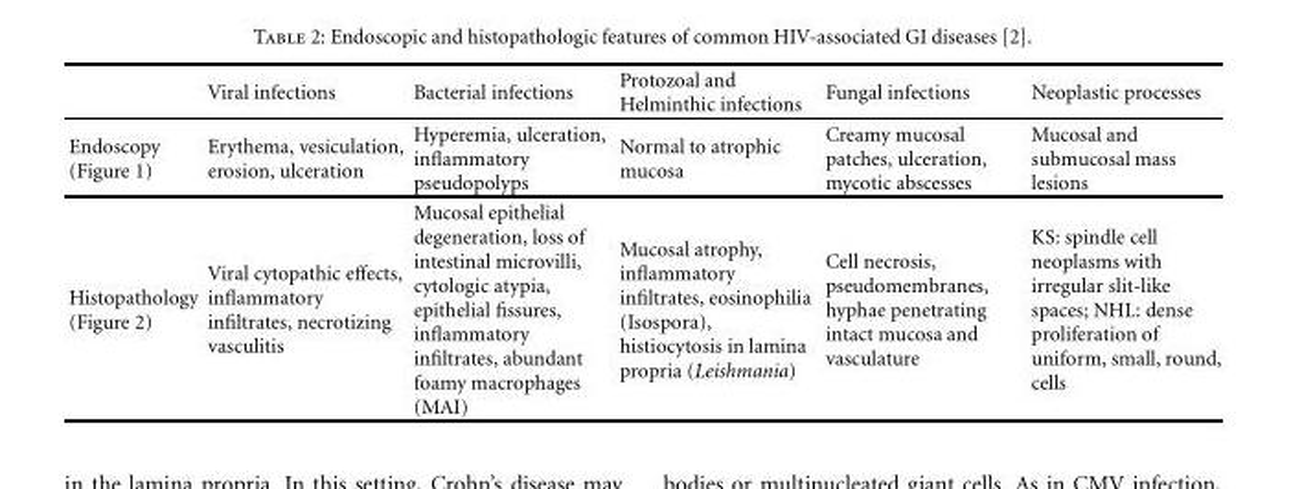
<table><thead><tr><td></td><td>Viral infections</td><td>Bacterial infections</td><td>Protozoal and Helminthic infections</td><td>Fungal infections</td><td>Neoplastic processes</td></tr></thead><tbody><tr><td>Endoscopy (Figure 1)</td><td>Erythema, vesiculation, erosion, ulceration</td><td>Hyperemia, ulceration, inflammatory pseudopolyps</td><td>Normal to atrophic mucosa</td><td>Creamy mucosal patches, ulceration, mycotic abscesses</td><td>Mucosal and submucosal mass lesions</td></tr><tr><td>Histopathology (Figure 2)</td><td>Viral cytopathic effects, inflammatory infiltrates, necrotizing vasculitis</td><td>Mucosal epithelial degeneration, loss of intestinal microvilli, cytologic atypia, epithelial fissures, inflammatory infiltrates, abundant foamy macrophages (MAI)</td><td>Mucosal atrophy, inflammatory infiltrates, eosinophilia (Isospora), histiocytosis in lamina propria (Leishmania)</td><td>Cell necrosis, pseudomembranes, hyphae penetrating intact mucosa and vasculature</td><td>KS: spindle cell neoplasms with irregular slit-like spaces; NHL: dense proliferation of uniform, small, round, cells</td></tr></tbody></table>